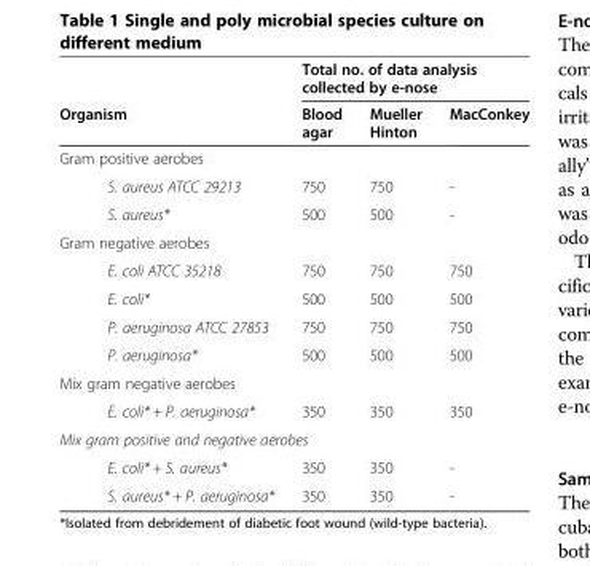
<table><thead><tr><td rowspan="2">Organism</td><td colspan="3">Total no. of data analysis collected by e-nose</td></tr><tr><td>Blood agar</td><td>Mueller Hinton</td><td>MacConkey</td></tr></thead><tbody><tr><td colspan="4">Gram positive aerobes</td></tr><tr><td>S. aureus ATCC 29213</td><td>750</td><td>750</td><td>-</td></tr><tr><td>S. aureus*</td><td>500</td><td>500</td><td>-</td></tr><tr><td colspan="4">Gram negative aerobes</td></tr><tr><td>E. coli ATCC 35218</td><td>750</td><td>750</td><td>750</td></tr><tr><td>E. coli*</td><td>500</td><td>500</td><td>500</td></tr><tr><td>P. aeruginosa ATCC 27853</td><td>750</td><td>750</td><td>750</td></tr><tr><td>P. aeruginosa*</td><td>500</td><td>500</td><td>500</td></tr><tr><td colspan="4">Mix gram negative aerobes</td></tr><tr><td>E. coli* + P. aeruginosa*</td><td>350</td><td>350</td><td>350</td></tr><tr><td colspan="4">Mix gram positive and negative aerobes</td></tr><tr><td>E. coli* + S. aureus*</td><td>350</td><td>350</td><td>-</td></tr><tr><td>S. aureus* + P. aeruginosa*</td><td>350</td><td>350</td><td>-</td></tr></tbody></table>